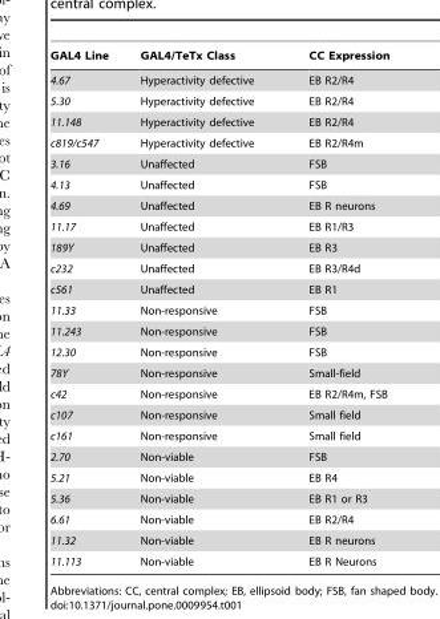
<table><thead><tr><td>GAL4 Line</td><td>GAL4/TeTx Class</td><td>CC Expression</td></tr></thead><tbody><tr><td>4.67</td><td>Hyperactivity defective</td><td>EB R2/R4</td></tr><tr><td>5.30</td><td>Hyperactivity defective</td><td>EB R2/R4</td></tr><tr><td>11.148</td><td>Hyperactivity defective</td><td>EB R2/R4</td></tr><tr><td>c819/c547</td><td>Hyperactivity defective</td><td>EB R2/R4m</td></tr><tr><td>3.16</td><td>Unaffected</td><td>FSB</td></tr><tr><td>4.13</td><td>Unaffected</td><td>FSB</td></tr><tr><td>4.69</td><td>Unaffected</td><td>EB R neurons</td></tr><tr><td>11.17</td><td>Unaffected</td><td>EB R1/R3</td></tr><tr><td>189Y</td><td>Unaffected</td><td>EB R3</td></tr><tr><td>c232</td><td>Unaffected</td><td>EB R3/R4d</td></tr><tr><td>c561</td><td>Unaffected</td><td>EB R1</td></tr><tr><td>11.33</td><td>Non-responsive</td><td>FSB</td></tr><tr><td>11.243</td><td>Non-responsive</td><td>FSB</td></tr><tr><td>12.30</td><td>Non-responsive</td><td>FSB</td></tr><tr><td>78Y</td><td>Non-responsive</td><td>Small-field</td></tr><tr><td>c42</td><td>Non-responsive</td><td>EB R2/R4m, FSB</td></tr><tr><td>c107</td><td>Non-responsive</td><td>Small field</td></tr><tr><td>c161</td><td>Non-responsive</td><td>Small field</td></tr><tr><td>2.70</td><td>Non-viable</td><td>FSB</td></tr><tr><td>5.21</td><td>Non-viable</td><td>EB R4</td></tr><tr><td>5.36</td><td>Non-viable</td><td>EB R1 or R3</td></tr><tr><td>6.61</td><td>Non-viable</td><td>EB R2/R4</td></tr><tr><td>11.32</td><td>Non-viable</td><td>EB R neurons</td></tr><tr><td>11.113</td><td>Non-viable</td><td>EB R Neurons</td></tr></tbody></table>